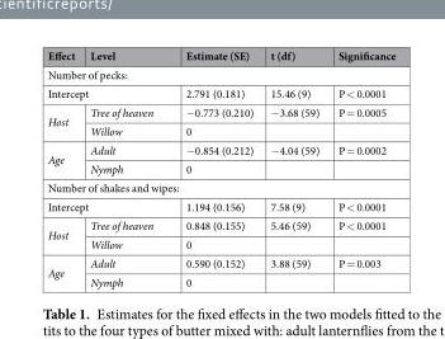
<table><thead><tr><td>Effect</td><td>Level</td><td>Estimate (SE)</td><td>t (df)</td><td>Significance</td></tr></thead><tbody><tr><td colspan="5">Number of pecks:</td></tr><tr><td colspan="2">Intercept</td><td>2.791 (0.181)</td><td>15.46 (9)</td><td>P &lt; 0.0001</td></tr><tr><td rowspan="2">Host</td><td>Tree of heaven</td><td>−0.773 (0.210)</td><td>−3.68 (59)</td><td>P = 0.0005</td></tr><tr><td>Willow</td><td>0</td><td></td><td></td></tr><tr><td rowspan="2">Age</td><td>Adult</td><td>−0.854 (0.212)</td><td>−4.04 (59)</td><td>P = 0.0002</td></tr><tr><td>Nymph</td><td>0</td><td></td><td></td></tr><tr><td colspan="5">Number of shakes and wipes:</td></tr><tr><td colspan="2">Intercept</td><td>1.194 (0.156)</td><td>7.58 (9)</td><td>P &lt; 0.0001</td></tr><tr><td rowspan="2">Host</td><td>Tree of heaven</td><td>0.848 (0.155)</td><td>5.46 (59)</td><td>P &lt; 0.0001</td></tr><tr><td>Willow</td><td>0</td><td></td><td></td></tr><tr><td rowspan="2">Age</td><td>Adult</td><td>0.590 (0.152)</td><td>3.88 (59)</td><td>P = 0.003</td></tr><tr><td>Nymph</td><td>0</td><td></td><td></td></tr></tbody></table>